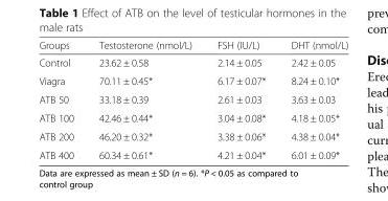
<table><thead><tr><td>Groups</td><td>Testosterone (nmol/L)</td><td>FSH (IU/L)</td><td>DHT (nmol/L)</td></tr></thead><tbody><tr><td>Control</td><td>23.62 ± 0.58</td><td>2.14 ± 0.05</td><td>2.42 ± 0.05</td></tr><tr><td>Viagra</td><td>70.11 ± 0.45*</td><td>6.17 ± 0.07*</td><td>8.24 ± 0.10*</td></tr><tr><td>ATB 50</td><td>33.18 ± 0.39</td><td>2.61 ± 0.03</td><td>3.63 ± 0.03</td></tr><tr><td>ATB 100</td><td>42.46 ± 0.44*</td><td>3.04 ± 0.08*</td><td>4.18 ± 0.05*</td></tr><tr><td>ATB 200</td><td>46.20 ± 0.32*</td><td>3.38 ± 0.06*</td><td>4.38 ± 0.04*</td></tr><tr><td>ATB 400</td><td>60.34 ± 0.61*</td><td>4.21 ± 0.04*</td><td>6.01 ± 0.09*</td></tr></tbody></table>